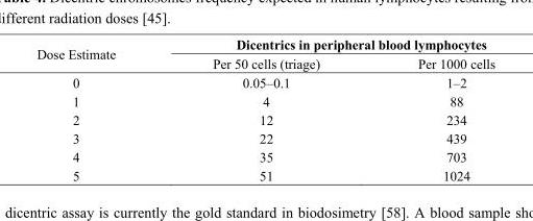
<table><thead><tr><td rowspan="2">Dose Estimate</td><td colspan="2">Dicentrics in peripheral blood lymphocytes</td></tr><tr><td>Per 50 cells (triage)</td><td>Per 1000 cells</td></tr></thead><tbody><tr><td>0</td><td>0.05–0.1</td><td>1–2</td></tr><tr><td>1</td><td>4</td><td>88</td></tr><tr><td>2</td><td>12</td><td>234</td></tr><tr><td>3</td><td>22</td><td>439</td></tr><tr><td>4</td><td>35</td><td>703</td></tr><tr><td>5</td><td>51</td><td>1024</td></tr></tbody></table>